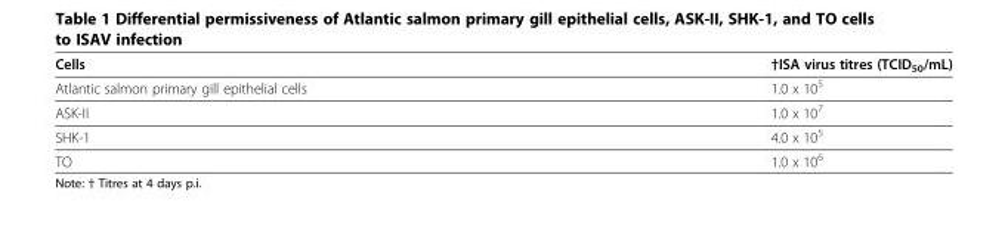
<table><thead><tr><td>Cells</td><td>†ISA virus titres (TCID<sub>50</sub>/mL)</td></tr></thead><tbody><tr><td>Atlantic salmon primary gill epithelial cells</td><td>1.0 x 10<sup>5</sup></td></tr><tr><td>ASK-II</td><td>1.0 x 10<sup>7</sup></td></tr><tr><td>SHK-1</td><td>4.0 x 10<sup>5</sup></td></tr><tr><td>TO</td><td>1.0 x 10<sup>6</sup></td></tr></tbody></table>